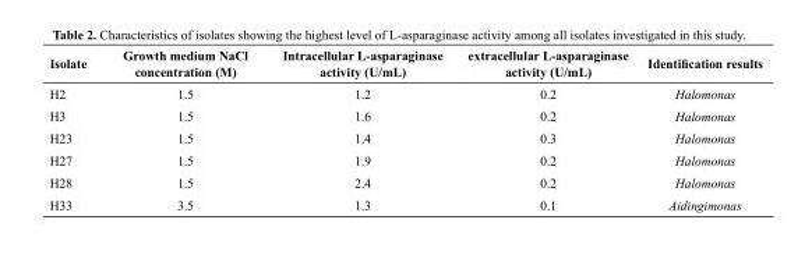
<table><thead><tr><td>Isolate</td><td>Growth medium NaCl concentration (M)</td><td>Intracellular L-asparaginase activity (U/mL)</td><td>extracellular L-asparaginase activity (U/mL)</td><td>Identification results</td></tr></thead><tbody><tr><td>H2</td><td>1.5</td><td>1.2</td><td>0.2</td><td>Halomonas</td></tr><tr><td>H3</td><td>1.5</td><td>1.6</td><td>0.2</td><td>Halomonas</td></tr><tr><td>H23</td><td>1.5</td><td>1.4</td><td>0.3</td><td>Halomonas</td></tr><tr><td>H27</td><td>1.5</td><td>1.9</td><td>0.2</td><td>Halomonas</td></tr><tr><td>H28</td><td>1.5</td><td>2.4</td><td>0.2</td><td>Halomonas</td></tr><tr><td>H33</td><td>3.5</td><td>1.3</td><td>0.1</td><td>Aidingimonas</td></tr></tbody></table>